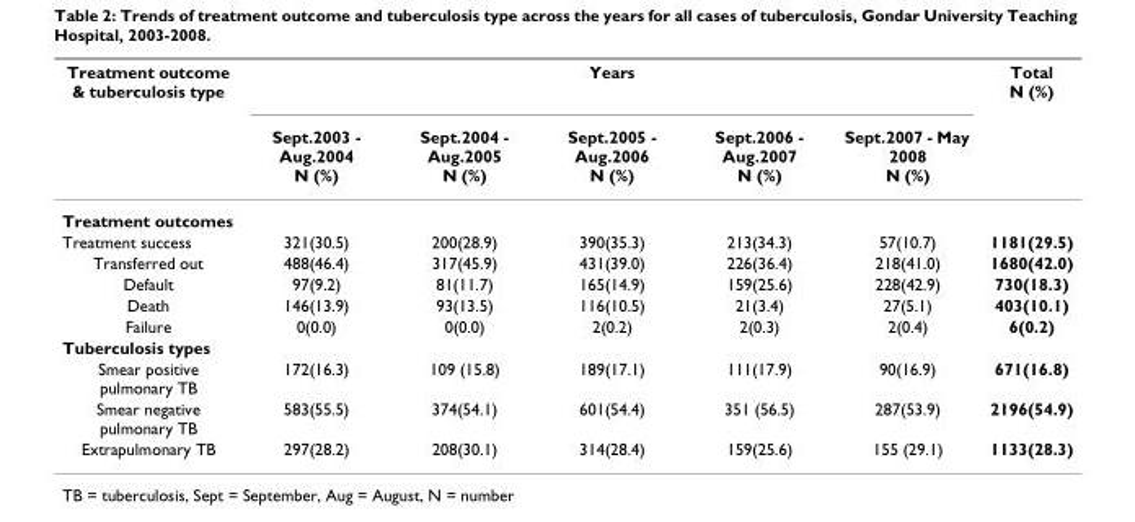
<table><thead><tr><td rowspan="2">Treatment outcome &amp; tuberculosis type</td><td colspan="5">Years</td><td rowspan="2">Total N (%)</td></tr><tr><td>Sept.2003 - Aug.2004 N (%)</td><td>Sept.2004 - Aug.2005 N (%)</td><td>Sept.2005 - Aug.2006 N (%)</td><td>Sept.2006 - Aug.2007 N (%)</td><td>Sept.2007 - May 2008 N (%)</td></tr></thead><tbody><tr><td colspan="7">Treatment outcomes</td></tr><tr><td>Treatment success</td><td>321(30.5)</td><td>200(28.9)</td><td>390(35.3)</td><td>213(34.3)</td><td>57(10.7)</td><td>1181(29.5)</td></tr><tr><td>Transferred out</td><td>488(46.4)</td><td>317(45.9)</td><td>431(39.0)</td><td>226(36.4)</td><td>218(41.0)</td><td>1680(42.0)</td></tr><tr><td>Default</td><td>97(9.2)</td><td>81(11.7)</td><td>165(14.9)</td><td>159(25.6)</td><td>228(42.9)</td><td>730(18.3)</td></tr><tr><td>Death</td><td>146(13.9)</td><td>93(13.5)</td><td>116(10.5)</td><td>21(3.4)</td><td>27(5.1)</td><td>403(10.1)</td></tr><tr><td>Failure</td><td>0(0.0)</td><td>0(0.0)</td><td>2(0.2)</td><td>2(0.3)</td><td>2(0.4)</td><td>6(0.2)</td></tr><tr><td colspan="7">Tuberculosis types</td></tr><tr><td>Smear positive pulmonary TB</td><td>172(16.3)</td><td>109 (15.8)</td><td>189(17.1)</td><td>111(17.9)</td><td>90(16.9)</td><td>671(16.8)</td></tr><tr><td>Smear negative pulmonary TB</td><td>583(55.5)</td><td>374(54.1)</td><td>601(54.4)</td><td>351 (56.5)</td><td>287(53.9)</td><td>2196(54.9)</td></tr><tr><td>Extrapulmonary TB</td><td>297(28.2)</td><td>208(30.1)</td><td>314(28.4)</td><td>159(25.6)</td><td>155 (29.1)</td><td>1133(28.3)</td></tr></tbody></table>